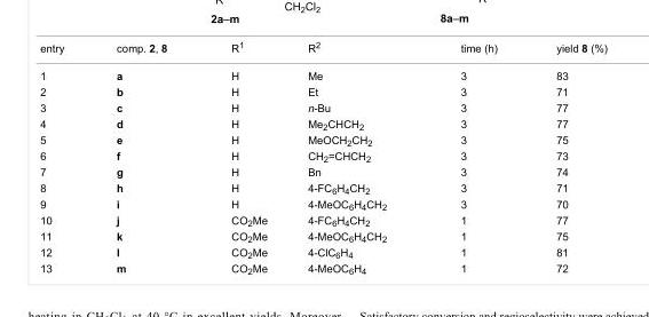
<table><tbody><tr><td>entry</td><td>comp. 2, 8</td><td>R<sup>1</sup></td><td>R<sup>2</sup></td><td>time (h)</td><td>yield 8 (%)</td></tr><tr><td>1</td><td>a</td><td>H</td><td>Me</td><td>3</td><td>83</td></tr><tr><td>2</td><td>b</td><td>H</td><td>Et</td><td>3</td><td>71</td></tr><tr><td>3</td><td>c</td><td>H</td><td>n-Bu</td><td>3</td><td>77</td></tr><tr><td>4</td><td>d</td><td>H</td><td>Me<sub>2</sub>CHCH<sub>2</sub></td><td>3</td><td>77</td></tr><tr><td>5</td><td>e</td><td>H</td><td>MeOCH<sub>2</sub>CH<sub>2</sub></td><td>3</td><td>75</td></tr><tr><td>6</td><td>f</td><td>H</td><td>CH<sub>2</sub>=CHCH<sub>2</sub></td><td>3</td><td>73</td></tr><tr><td>7</td><td>g</td><td>H</td><td>Bn</td><td>3</td><td>74</td></tr><tr><td>8</td><td>h</td><td>H</td><td>4-FC<sub>6</sub>H<sub>4</sub>CH<sub>2</sub></td><td>3</td><td>71</td></tr><tr><td>9</td><td>i</td><td>H</td><td>4-MeOC<sub>6</sub>H<sub>4</sub>CH<sub>2</sub></td><td>3</td><td>70</td></tr><tr><td>10</td><td>j</td><td>CO<sub>2</sub>Me</td><td>4-FC<sub>6</sub>H<sub>4</sub>CH<sub>2</sub></td><td>1</td><td>77</td></tr><tr><td>11</td><td>k</td><td>CO<sub>2</sub>Me</td><td>4-MeOC<sub>6</sub>H<sub>4</sub>CH<sub>2</sub></td><td>1</td><td>75</td></tr><tr><td>12</td><td>l</td><td>CO<sub>2</sub>Me</td><td>4-ClC<sub>6</sub>H<sub>4</sub></td><td>1</td><td>81</td></tr><tr><td>13</td><td>m</td><td>CO<sub>2</sub>Me</td><td>4-MeOC<sub>6</sub>H<sub>4</sub></td><td>1</td><td>72</td></tr></tbody></table>